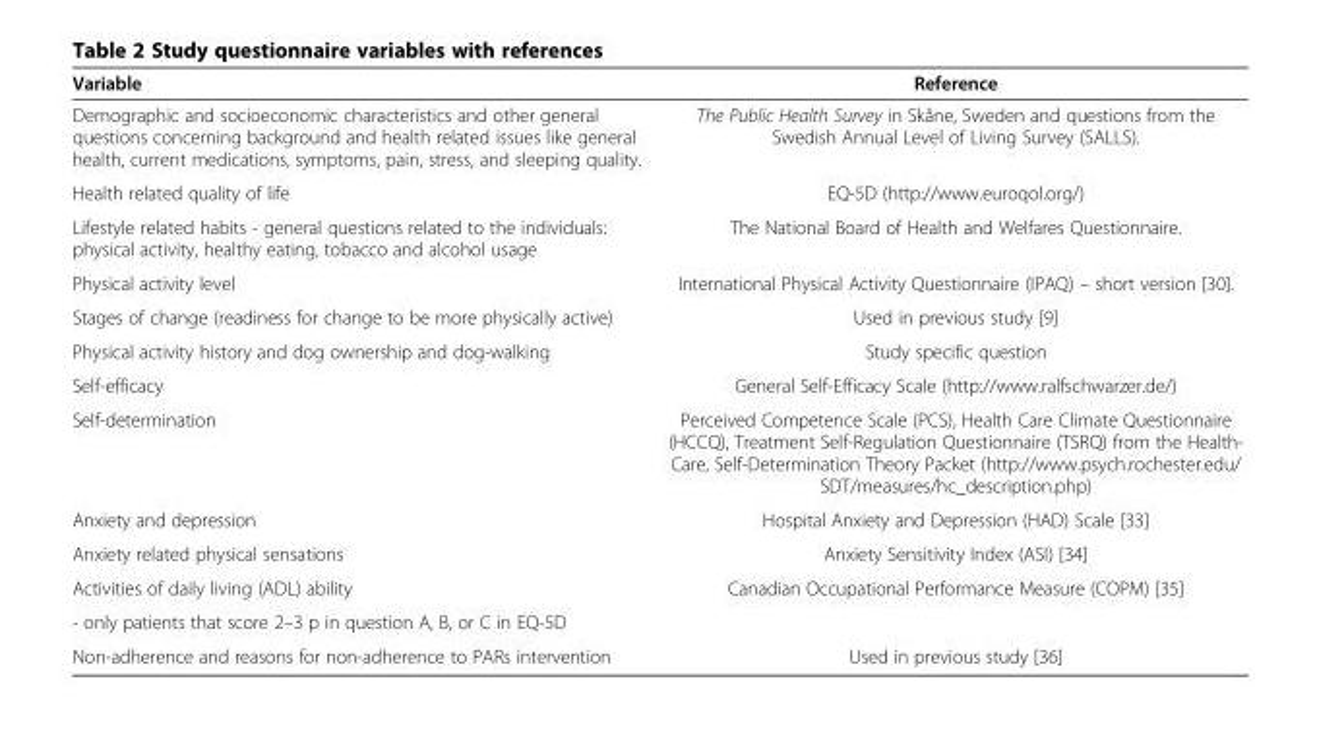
<table><thead><tr><td>Variable</td><td>Reference</td></tr></thead><tbody><tr><td>Demographic and socioeconomic characteristics and other general questions concerning background and health related issues like general health, current medications, symptoms, pain, stress, and sleeping quality.</td><td>The Public Health Survey in Skåne, Sweden and questions from the Swedish Annual Level of Living Survey (SALLS).</td></tr><tr><td>Health related quality of life</td><td>EQ-5D (http://www.euroqol.org/)</td></tr><tr><td>Lifestyle related habits - general questions related to the individuals: physical activity, healthy eating, tobacco and alcohol usage</td><td>The National Board of Health and Welfares Questionnaire.</td></tr><tr><td>Physical activity level</td><td>International Physical Activity Questionnaire (IPAQ) – short version [30].</td></tr><tr><td>Stages of change (readiness for change to be more physically active)</td><td>Used in previous study [9]</td></tr><tr><td>Physical activity history and dog ownership and dog-walking</td><td>Study specific question</td></tr><tr><td>Self-efficacy</td><td>General Self-Efficacy Scale (http://www.ralfschwarzer.de/)</td></tr><tr><td>Self-determination</td><td>Perceived Competence Scale (PCS), Health Care Climate Questionnaire (HCCQ), Treatment Self-Regulation Questionnaire (TSRQ) from the Health- Care, Self-Determination Theory Packet (http://www.psych.rochester.edu/ SDT/measures/hc_description.php)</td></tr><tr><td>Anxiety and depression</td><td>Hospital Anxiety and Depression (HAD) Scale [33]</td></tr><tr><td>Anxiety related physical sensations</td><td>Anxiety Sensitivity Index (ASI) [34]</td></tr><tr><td>Activities of daily living (ADL) ability</td><td>Canadian Occupational Performance Measure (COPM) [35]</td></tr><tr><td colspan="2">- only patients that score 2–3 p in question A, B, or C in EQ-5D</td></tr><tr><td>Non-adherence and reasons for non-adherence to PARs intervention</td><td>Used in previous study [36]</td></tr></tbody></table>